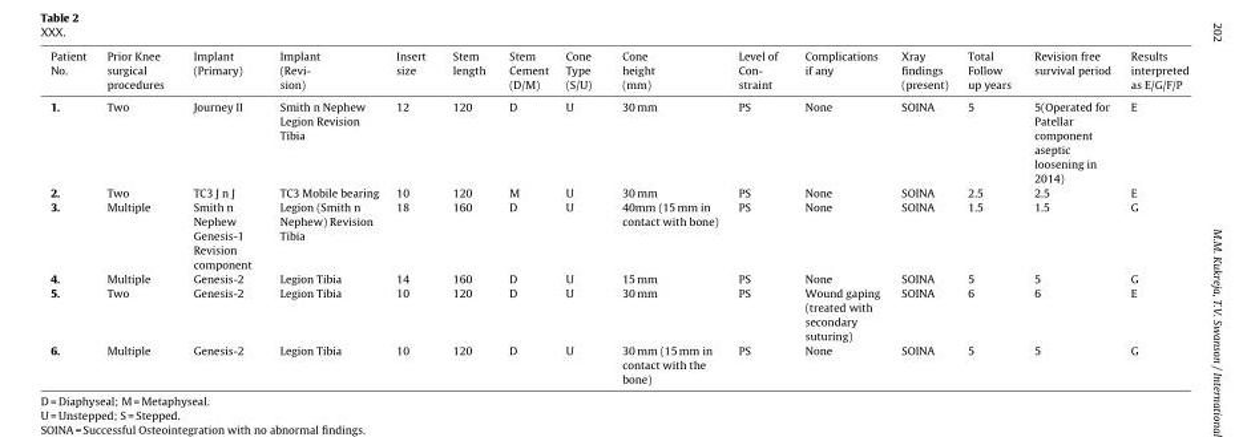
<table><thead><tr><td>Patient No.</td><td>Prior Knee surgical procedures</td><td>Implant (Primary)</td><td>Implant (Revi- sion)</td><td>Insert size</td><td>Stem length</td><td>Stem Cement (D/M)</td><td>Cone Type (S/U)</td><td>Cone height (mm)</td><td>Level of Con- straint</td><td>Complications if any</td><td>Xray findings (present)</td><td>Total Follow up years</td><td>Revision free survival period</td><td>Results interpreted as E/G/F/P</td></tr></thead><tbody><tr><td>1.</td><td>Two</td><td>Journey II</td><td>Smith n Nephew Legion Revision Tibia</td><td>12</td><td>120</td><td>D</td><td>U</td><td>30 mm</td><td>PS</td><td>None</td><td>SOINA</td><td>5</td><td>5(Operated for Patellar component aseptic loosening in 2014)</td><td>E</td></tr><tr><td>2.</td><td>Two</td><td>TC3 J n J</td><td>TC3 Mobile bearing</td><td>10</td><td>120</td><td>M</td><td>U</td><td>30 mm</td><td>PS</td><td>None</td><td>SOINA</td><td>2.5</td><td>2.5</td><td>E</td></tr><tr><td>3.</td><td>Multiple</td><td>Smith n Nephew Genesis-1 Revision component</td><td>Legion (Smith n Nephew) Revision Tibia</td><td>18</td><td>160</td><td>D</td><td>U</td><td>40mm (15 mm in contact with bone)</td><td>PS</td><td>None</td><td>SOINA</td><td>1.5</td><td>1.5</td><td>G</td></tr><tr><td>4.</td><td>Multiple</td><td>Genesis-2</td><td>Legion Tibia</td><td>14</td><td>160</td><td>D</td><td>U</td><td>15 mm</td><td>PS</td><td>None</td><td>SOINA</td><td>5</td><td>5</td><td>G</td></tr><tr><td>5.</td><td>Two</td><td>Genesis-2</td><td>Legion Tibia</td><td>10</td><td>120</td><td>D</td><td>U</td><td>30 mm</td><td>PS</td><td>Wound gaping (treated with secondary suturing)</td><td>SOINA</td><td>6</td><td>6</td><td>E</td></tr><tr><td>6.</td><td>Multiple</td><td>Genesis-2</td><td>Legion Tibia</td><td>10</td><td>120</td><td>D</td><td>U</td><td>30 mm (15 mm in contact with the bone)</td><td>PS</td><td>None</td><td>SOINA</td><td>5</td><td>5</td><td>G</td></tr></tbody></table>